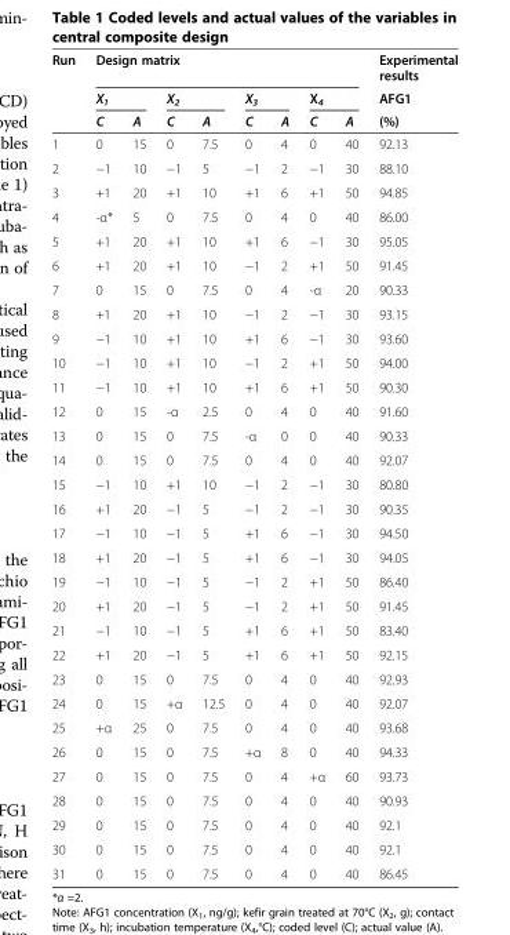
<table><thead><tr><td rowspan="3">Run</td><td colspan="8">Design matrix</td><td rowspan="3">Experimental results AFG1 (%)</td></tr><tr><td colspan="2">X<sub>1</sub></td><td colspan="2">X<sub>2</sub></td><td colspan="2">X<sub>3</sub></td><td colspan="2">X<sub>4</sub></td></tr><tr><td>C</td><td>A</td><td>C</td><td>A</td><td>C</td><td>A</td><td>C</td><td>A</td></tr></thead><tbody><tr><td>1</td><td>0</td><td>15</td><td>0</td><td>7.5</td><td>0</td><td>4</td><td>0</td><td>40</td><td>92.13</td></tr><tr><td>2</td><td>−1</td><td>10</td><td>−1</td><td>5</td><td>−1</td><td>2</td><td>−1</td><td>30</td><td>88.10</td></tr><tr><td>3</td><td>+1</td><td>20</td><td>+1</td><td>10</td><td>+1</td><td>6</td><td>+1</td><td>50</td><td>94.85</td></tr><tr><td>4</td><td>-α*</td><td>5</td><td>0</td><td>7.5</td><td>0</td><td>4</td><td>0</td><td>40</td><td>86.00</td></tr><tr><td>5</td><td>+1</td><td>20</td><td>+1</td><td>10</td><td>+1</td><td>6</td><td>−1</td><td>30</td><td>95.05</td></tr><tr><td>6</td><td>+1</td><td>20</td><td>+1</td><td>10</td><td>−1</td><td>2</td><td>+1</td><td>50</td><td>91.45</td></tr><tr><td>7</td><td>0</td><td>15</td><td>0</td><td>7.5</td><td>0</td><td>4</td><td>-α</td><td>20</td><td>90.33</td></tr><tr><td>8</td><td>+1</td><td>20</td><td>+1</td><td>10</td><td>−1</td><td>2</td><td>−1</td><td>30</td><td>93.15</td></tr><tr><td>9</td><td>−1</td><td>10</td><td>+1</td><td>10</td><td>+1</td><td>6</td><td>−1</td><td>30</td><td>93.60</td></tr><tr><td>10</td><td>−1</td><td>10</td><td>+1</td><td>10</td><td>−1</td><td>2</td><td>+1</td><td>50</td><td>94.00</td></tr><tr><td>11</td><td>−1</td><td>10</td><td>+1</td><td>10</td><td>+1</td><td>6</td><td>+1</td><td>50</td><td>90.30</td></tr><tr><td>12</td><td>0</td><td>15</td><td>-α</td><td>2.5</td><td>0</td><td>4</td><td>0</td><td>40</td><td>91.60</td></tr><tr><td>13</td><td>0</td><td>15</td><td>0</td><td>7.5</td><td>-α</td><td>0</td><td>0</td><td>40</td><td>90.33</td></tr><tr><td>14</td><td>0</td><td>15</td><td>0</td><td>7.5</td><td>0</td><td>4</td><td>0</td><td>40</td><td>92.07</td></tr><tr><td>15</td><td>−1</td><td>10</td><td>+1</td><td>10</td><td>−1</td><td>2</td><td>−1</td><td>30</td><td>80.80</td></tr><tr><td>16</td><td>+1</td><td>20</td><td>−1</td><td>5</td><td>−1</td><td>2</td><td>−1</td><td>30</td><td>90.35</td></tr><tr><td>17</td><td>−1</td><td>10</td><td>−1</td><td>5</td><td>+1</td><td>6</td><td>−1</td><td>30</td><td>94.50</td></tr><tr><td>18</td><td>+1</td><td>20</td><td>−1</td><td>5</td><td>+1</td><td>6</td><td>−1</td><td>30</td><td>94.05</td></tr><tr><td>19</td><td>−1</td><td>10</td><td>−1</td><td>5</td><td>−1</td><td>2</td><td>+1</td><td>50</td><td>86.40</td></tr><tr><td>20</td><td>+1</td><td>20</td><td>−1</td><td>5</td><td>−1</td><td>2</td><td>+1</td><td>50</td><td>91.45</td></tr><tr><td>21</td><td>−1</td><td>10</td><td>−1</td><td>5</td><td>+1</td><td>6</td><td>+1</td><td>50</td><td>83.40</td></tr><tr><td>22</td><td>+1</td><td>20</td><td>−1</td><td>5</td><td>+1</td><td>6</td><td>+1</td><td>50</td><td>92.15</td></tr><tr><td>23</td><td>0</td><td>15</td><td>0</td><td>7.5</td><td>0</td><td>4</td><td>0</td><td>40</td><td>92.93</td></tr><tr><td>24</td><td>0</td><td>15</td><td>+α</td><td>12.5</td><td>0</td><td>4</td><td>0</td><td>40</td><td>92.07</td></tr><tr><td>25</td><td>+α</td><td>25</td><td>0</td><td>7.5</td><td>0</td><td>4</td><td>0</td><td>40</td><td>93.68</td></tr><tr><td>26</td><td>0</td><td>15</td><td>0</td><td>7.5</td><td>+α</td><td>8</td><td>0</td><td>40</td><td>94.33</td></tr><tr><td>27</td><td>0</td><td>15</td><td>0</td><td>7.5</td><td>0</td><td>4</td><td>+α</td><td>60</td><td>93.73</td></tr><tr><td>28</td><td>0</td><td>15</td><td>0</td><td>7.5</td><td>0</td><td>4</td><td>0</td><td>40</td><td>90.93</td></tr><tr><td>29</td><td>0</td><td>15</td><td>0</td><td>7.5</td><td>0</td><td>4</td><td>0</td><td>40</td><td>92.1</td></tr><tr><td>30</td><td>0</td><td>15</td><td>0</td><td>7.5</td><td>0</td><td>4</td><td>0</td><td>40</td><td>92.1</td></tr><tr><td>31</td><td>0</td><td>15</td><td>0</td><td>7.5</td><td>0</td><td>4</td><td>0</td><td>40</td><td>86.45</td></tr></tbody></table>